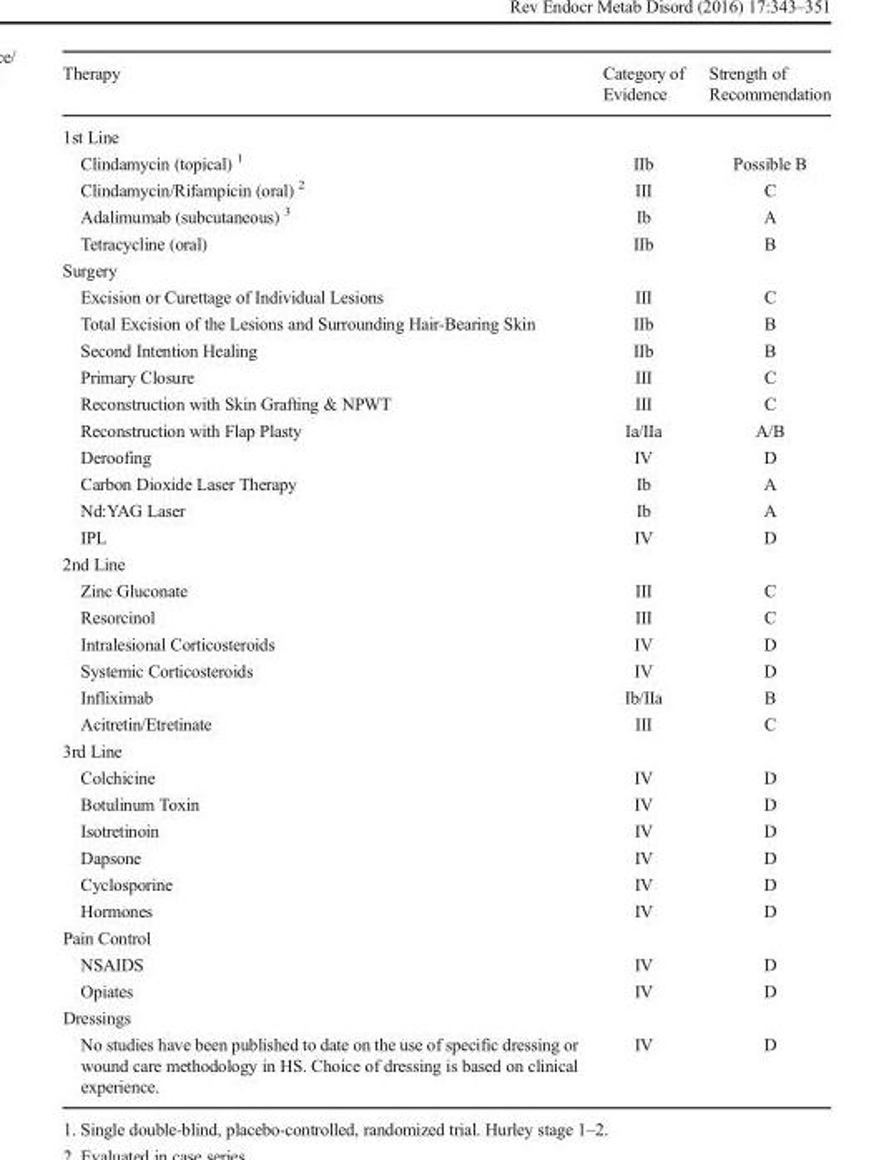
<table><thead><tr><td>Therapy</td><td>Category of Evidence</td><td>Strength of Recommendation</td></tr></thead><tbody><tr><td colspan="3">1st Line</td></tr><tr><td>Clindamycin (topical) <sup>1</sup></td><td>IIb</td><td>Possible B</td></tr><tr><td>Clindamycin/Rifampicin (oral) <sup>2</sup></td><td>III</td><td>C</td></tr><tr><td>Adalimumab (subcutaneous) <sup>3</sup></td><td>Ib</td><td>A</td></tr><tr><td>Tetracycline (oral)</td><td>IIb</td><td>B</td></tr><tr><td colspan="3">Surgery</td></tr><tr><td>Excision or Curettage of Individual Lesions</td><td>III</td><td>C</td></tr><tr><td>Total Excision of the Lesions and Surrounding Hair-Bearing Skin</td><td>IIb</td><td>B</td></tr><tr><td>Second Intention Healing</td><td>IIb</td><td>B</td></tr><tr><td>Primary Closure</td><td>III</td><td>C</td></tr><tr><td>Reconstruction with Skin Grafting &amp; NPWT</td><td>III</td><td>C</td></tr><tr><td>Reconstruction with Flap Plasty</td><td>Ia/IIa</td><td>A/B</td></tr><tr><td>Deroofing</td><td>IV</td><td>D</td></tr><tr><td>Carbon Dioxide Laser Therapy</td><td>Ib</td><td>A</td></tr><tr><td>Nd:YAG Laser</td><td>Ib</td><td>A</td></tr><tr><td>IPL</td><td>IV</td><td>D</td></tr><tr><td colspan="3">2nd Line</td></tr><tr><td>Zinc Gluconate</td><td>III</td><td>C</td></tr><tr><td>Resorcinol</td><td>III</td><td>C</td></tr><tr><td>Intralesional Corticosteroids</td><td>IV</td><td>D</td></tr><tr><td>Systemic Corticosteroids</td><td>IV</td><td>D</td></tr><tr><td>Infliximab</td><td>Ib/IIa</td><td>B</td></tr><tr><td>Acitretin/Etretinate</td><td>III</td><td>C</td></tr><tr><td colspan="3">3rd Line</td></tr><tr><td>Colchicine</td><td>IV</td><td>D</td></tr><tr><td>Botulinum Toxin</td><td>IV</td><td>D</td></tr><tr><td>Isotretinoin</td><td>IV</td><td>D</td></tr><tr><td>Dapsone</td><td>IV</td><td>D</td></tr><tr><td>Cyclosporine</td><td>IV</td><td>D</td></tr><tr><td>Hormones</td><td>IV</td><td>D</td></tr><tr><td colspan="3">Pain Control</td></tr><tr><td>NSAIDS</td><td>IV</td><td>D</td></tr><tr><td>Opiates</td><td>IV</td><td>D</td></tr><tr><td colspan="3">Dressings</td></tr><tr><td>No studies have been published to date on the use of specific dressing or wound care methodology in HS. Choice of dressing is based on clinical experience.</td><td>IV</td><td>D</td></tr></tbody></table>